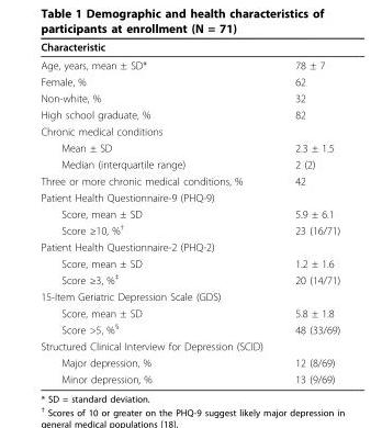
<table><thead><tr><td>Characteristic</td><td></td></tr></thead><tbody><tr><td>Age, years, mean ± SD*</td><td>78 ± 7</td></tr><tr><td>Female, %</td><td>62</td></tr><tr><td>Non-white, %</td><td>32</td></tr><tr><td>High school graduate, %</td><td>82</td></tr><tr><td colspan="2">Chronic medical conditions</td></tr><tr><td>Mean ± SD</td><td>2.3 ± 1.5</td></tr><tr><td>Median (interquartile range)</td><td>2 (2)</td></tr><tr><td>Three or more chronic medical conditions, %</td><td>42</td></tr><tr><td colspan="2">Patient Health Questionnaire-9 (PHQ-9)</td></tr><tr><td>Score, mean ± SD</td><td>5.9 ± 6.1</td></tr><tr><td>Score ≥10, %<sup>†</sup></td><td>23 (16/71)</td></tr><tr><td colspan="2">Patient Health Questionnaire-2 (PHQ-2)</td></tr><tr><td>Score, mean ± SD</td><td>1.2 ± 1.6</td></tr><tr><td>Score ≥3, %<sup>‡</sup></td><td>20 (14/71)</td></tr><tr><td colspan="2">15-Item Geriatric Depression Scale (GDS)</td></tr><tr><td>Score, mean ± SD</td><td>5.8 ± 1.8</td></tr><tr><td>Score &gt;5, %<sup>§</sup></td><td>48 (33/69)</td></tr><tr><td colspan="2">Structured Clinical Interview for Depression (SCID)</td></tr><tr><td>Major depression, %</td><td>12 (8/69)</td></tr><tr><td>Minor depression, %</td><td>13 (9/69)</td></tr></tbody></table>